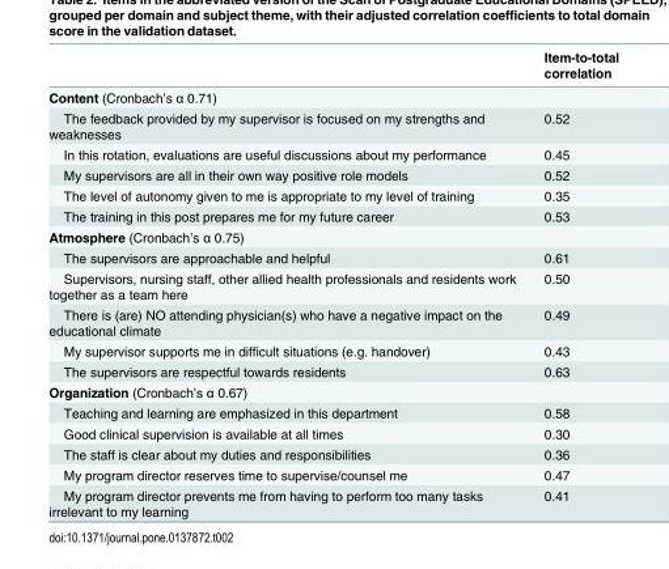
<table><thead><tr><td></td><td>Item-to-total correlation</td></tr></thead><tbody><tr><td colspan="2">Content (Cronbach’s α 0.71)</td></tr><tr><td>The feedback provided by my supervisor is focused on my strengths and weaknesses</td><td>0.52</td></tr><tr><td>In this rotation, evaluations are useful discussions about my performance</td><td>0.45</td></tr><tr><td>My supervisors are all in their own way positive role models</td><td>0.52</td></tr><tr><td>The level of autonomy given to me is appropriate to my level of training</td><td>0.35</td></tr><tr><td>The training in this post prepares me for my future career</td><td>0.53</td></tr><tr><td colspan="2">Atmosphere (Cronbach’s α 0.75)</td></tr><tr><td>The supervisors are approachable and helpful</td><td>0.61</td></tr><tr><td>Supervisors, nursing staff, other allied health professionals and residents work together as a team here</td><td>0.50</td></tr><tr><td>There is (are) NO attending physician(s) who have a negative impact on the educational climate</td><td>0.49</td></tr><tr><td>My supervisor supports me in difficult situations (e.g. handover)</td><td>0.43</td></tr><tr><td>The supervisors are respectful towards residents</td><td>0.63</td></tr><tr><td colspan="2">Organization (Cronbach’s α 0.67)</td></tr><tr><td>Teaching and learning are emphasized in this department</td><td>0.58</td></tr><tr><td>Good clinical supervision is available at all times</td><td>0.30</td></tr><tr><td>The staff is clear about my duties and responsibilities</td><td>0.36</td></tr><tr><td>My program director reserves time to supervise/counsel me</td><td>0.47</td></tr><tr><td>My program director prevents me from having to perform too many tasks irrelevant to my learning</td><td>0.41</td></tr></tbody></table>